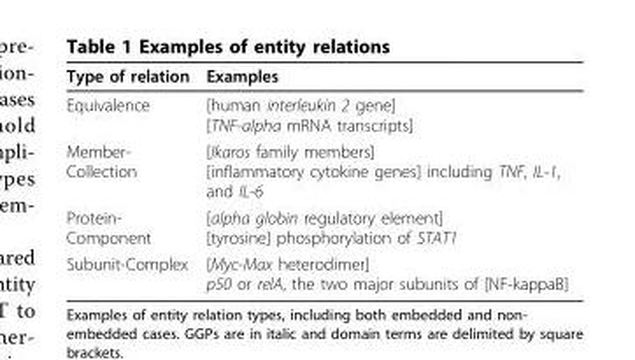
<table><thead><tr><td>Type of relation</td><td>Examples</td></tr></thead><tbody><tr><td>Equivalence</td><td>[human interleukin 2 gene] [TNF-alpha mRNA transcripts]</td></tr><tr><td>Member- Collection</td><td>[Ikaros family members] [inflammatory cytokine genes] including TNF, IL-1, and IL-6</td></tr><tr><td>Protein- Component</td><td>[alpha globin regulatory element] [tyrosine] phosphorylation of STAT1</td></tr><tr><td>Subunit-Complex</td><td>[Myc-Max heterodimer] p50 or relA, the two major subunits of [NF-kappaB]</td></tr></tbody></table>